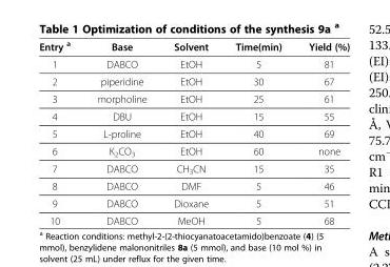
<table><thead><tr><td>Entry <sup>a</sup></td><td>Base</td><td>Solvent</td><td>Time(min)</td><td>Yield (%)</td></tr></thead><tbody><tr><td>1</td><td>DABCO</td><td>EtOH</td><td>5</td><td>81</td></tr><tr><td>2</td><td>piperidine</td><td>EtOH</td><td>30</td><td>67</td></tr><tr><td>3</td><td>morpholine</td><td>EtOH</td><td>25</td><td>61</td></tr><tr><td>4</td><td>DBU</td><td>EtOH</td><td>15</td><td>55</td></tr><tr><td>5</td><td>L-proline</td><td>EtOH</td><td>40</td><td>69</td></tr><tr><td>6</td><td>K<sub>2</sub>CO<sub>3</sub></td><td>EtOH</td><td>60</td><td>none</td></tr><tr><td>7</td><td>DABCO</td><td>CH<sub>3</sub>CN</td><td>15</td><td>35</td></tr><tr><td>8</td><td>DABCO</td><td>DMF</td><td>5</td><td>46</td></tr><tr><td>9</td><td>DABCO</td><td>Dioxane</td><td>5</td><td>51</td></tr><tr><td>10</td><td>DABCO</td><td>MeOH</td><td>5</td><td>68</td></tr></tbody></table>